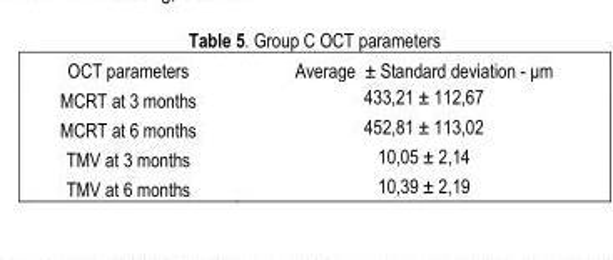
<table><tbody><tr><td>OCT parameters</td><td>Average ± Standard deviation - μm</td></tr><tr><td>MCRT at 3 months</td><td>433,21 ± 112,67</td></tr><tr><td>MCRT at 6 months</td><td>452,81 ± 113,02</td></tr><tr><td>TMV at 3 months</td><td>10,05 ± 2,14</td></tr><tr><td>TMV at 6 months</td><td>10,39 ± 2,19</td></tr></tbody></table>